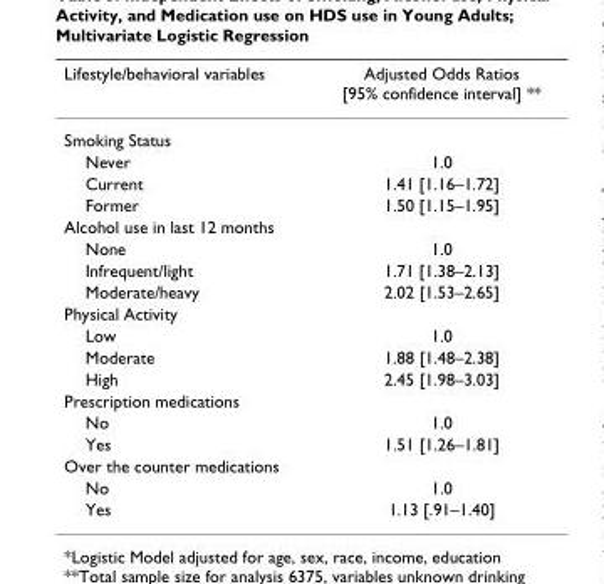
<table><thead><tr><td>Lifestyle/behavioral variables</td><td>Adjusted Odds Ratios [95% confidence interval] **</td></tr></thead><tbody><tr><td colspan="2">Smoking Status</td></tr><tr><td>Never</td><td>1.0</td></tr><tr><td>Current</td><td>1.41 [1.16–1.72]</td></tr><tr><td>Former</td><td>1.50 [1.15–1.95]</td></tr><tr><td colspan="2">Alcohol use in last 12 months</td></tr><tr><td>None</td><td>1.0</td></tr><tr><td>Infrequent/light</td><td>1.71 [1.38–2.13]</td></tr><tr><td>Moderate/heavy</td><td>2.02 [1.53–2.65]</td></tr><tr><td colspan="2">Physical Activity</td></tr><tr><td>Low</td><td>1.0</td></tr><tr><td>Moderate</td><td>1.88 [1.48–2.38]</td></tr><tr><td>High</td><td>2.45 [1.98–3.03]</td></tr><tr><td colspan="2">Prescription medications</td></tr><tr><td>No</td><td>1.0</td></tr><tr><td>Yes</td><td>1.51 [1.26–1.81]</td></tr><tr><td colspan="2">Over the counter medications</td></tr><tr><td>No</td><td>1.0</td></tr><tr><td>Yes</td><td>1.13 [.91–1.40]</td></tr></tbody></table>